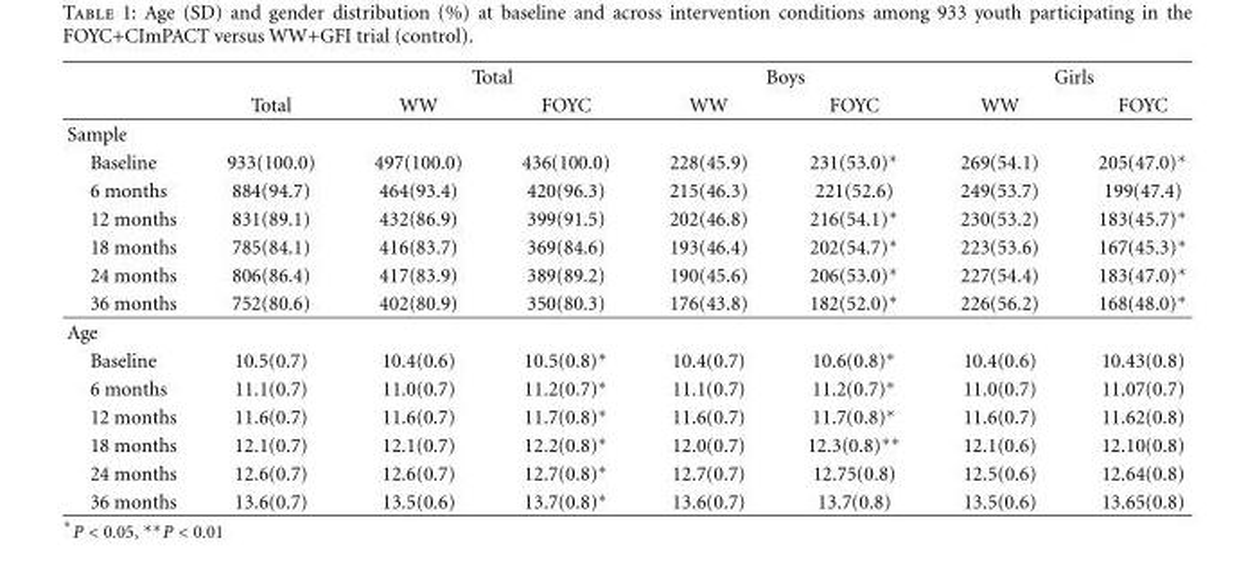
<table><thead><tr><td rowspan="2"></td><td rowspan="2">Total</td><td colspan="2">Total</td><td colspan="2">Boys</td><td colspan="2">Girls</td></tr><tr><td>WW</td><td>FOYC</td><td>WW</td><td>FOYC</td><td>WW</td><td>FOYC</td></tr></thead><tbody><tr><td colspan="8">Sample</td></tr><tr><td>Baseline</td><td>933(100.0)</td><td>497(100.0)</td><td>436(100.0)</td><td>228(45.9)</td><td>231(53.0)∗</td><td>269(54.1)</td><td>205(47.0)∗</td></tr><tr><td>6 months</td><td>884(94.7)</td><td>464(93.4)</td><td>420(96.3)</td><td>215(46.3)</td><td>221(52.6)</td><td>249(53.7)</td><td>199(47.4)</td></tr><tr><td>12 months</td><td>831(89.1)</td><td>432(86.9)</td><td>399(91.5)</td><td>202(46.8)</td><td>216(54.1)∗</td><td>230(53.2)</td><td>183(45.7)∗</td></tr><tr><td>18 months</td><td>785(84.1)</td><td>416(83.7)</td><td>369(84.6)</td><td>193(46.4)</td><td>202(54.7)∗</td><td>223(53.6)</td><td>167(45.3)∗</td></tr><tr><td>24 months</td><td>806(86.4)</td><td>417(83.9)</td><td>389(89.2)</td><td>190(45.6)</td><td>206(53.0)∗</td><td>227(54.4)</td><td>183(47.0)∗</td></tr><tr><td>36 months</td><td>752(80.6)</td><td>402(80.9)</td><td>350(80.3)</td><td>176(43.8)</td><td>182(52.0)∗</td><td>226(56.2)</td><td>168(48.0)∗</td></tr><tr><td colspan="8">Age</td></tr><tr><td>Baseline</td><td>10.5(0.7)</td><td>10.4(0.6)</td><td>10.5(0.8)∗</td><td>10.4(0.7)</td><td>10.6(0.8)∗</td><td>10.4(0.6)</td><td>10.43(0.8)</td></tr><tr><td>6 months</td><td>11.1(0.7)</td><td>11.0(0.7)</td><td>11.2(0.7)∗</td><td>11.1(0.7)</td><td>11.2(0.7)∗</td><td>11.0(0.7)</td><td>11.07(0.7)</td></tr><tr><td>12 months</td><td>11.6(0.7)</td><td>11.6(0.7)</td><td>11.7(0.8)∗</td><td>11.6(0.7)</td><td>11.7(0.8)∗</td><td>11.6(0.7)</td><td>11.62(0.8)</td></tr><tr><td>18 months</td><td>12.1(0.7)</td><td>12.1(0.7)</td><td>12.2(0.8)∗</td><td>12.0(0.7)</td><td>12.3(0.8)∗∗</td><td>12.1(0.6)</td><td>12.10(0.8)</td></tr><tr><td>24 months</td><td>12.6(0.7)</td><td>12.6(0.7)</td><td>12.7(0.8)∗</td><td>12.7(0.7)</td><td>12.75(0.8)</td><td>12.5(0.6)</td><td>12.64(0.8)</td></tr><tr><td>36 months</td><td>13.6(0.7)</td><td>13.5(0.6)</td><td>13.7(0.8)∗</td><td>13.6(0.7)</td><td>13.7(0.8)</td><td>13.5(0.6)</td><td>13.65(0.8)</td></tr></tbody></table>